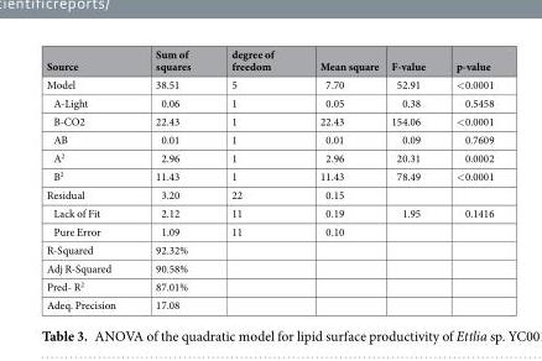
<table><thead><tr><td>Source</td><td>Sum of squares</td><td>degree of freedom</td><td>Mean square</td><td>F-value</td><td>p-value</td></tr></thead><tbody><tr><td>Model</td><td>38.51</td><td>5</td><td>7.70</td><td>52.91</td><td>&lt;0.0001</td></tr><tr><td>A-Light</td><td>0.06</td><td>1</td><td>0.05</td><td>0.38</td><td>0.5458</td></tr><tr><td>B-CO2</td><td>22.43</td><td>1</td><td>22.43</td><td>154.06</td><td>&lt;0.0001</td></tr><tr><td>AB</td><td>0.01</td><td>1</td><td>0.01</td><td>0.09</td><td>0.7609</td></tr><tr><td>A<sup>2</sup></td><td>2.96</td><td>1</td><td>2.96</td><td>20.31</td><td>0.0002</td></tr><tr><td>B<sup>2</sup></td><td>11.43</td><td>1</td><td>11.43</td><td>78.49</td><td>&lt;0.0001</td></tr><tr><td>Residual</td><td>3.20</td><td>22</td><td>0.15</td><td></td><td></td></tr><tr><td>Lack of Fit</td><td>2.12</td><td>11</td><td>0.19</td><td>1.95</td><td>0.1416</td></tr><tr><td>Pure Error</td><td>1.09</td><td>11</td><td>0.10</td><td></td><td></td></tr><tr><td>R-Squared</td><td>92.32%</td><td></td><td></td><td></td><td></td></tr><tr><td>Adj R-Squared</td><td>90.58%</td><td></td><td></td><td></td><td></td></tr><tr><td>Pred- R<sup>2</sup></td><td>87.01%</td><td></td><td></td><td></td><td></td></tr><tr><td>Adeq. Precision</td><td>17.08</td><td></td><td></td><td></td><td></td></tr></tbody></table>